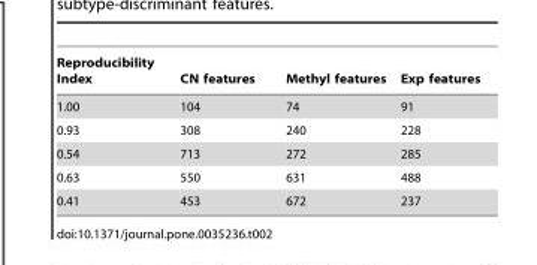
<table><thead><tr><td>Reproducibility Index</td><td>CN features</td><td>Methyl features</td><td>Exp features</td></tr></thead><tbody><tr><td>1.00</td><td>104</td><td>74</td><td>91</td></tr><tr><td>0.93</td><td>308</td><td>240</td><td>228</td></tr><tr><td>0.54</td><td>713</td><td>272</td><td>285</td></tr><tr><td>0.63</td><td>550</td><td>631</td><td>488</td></tr><tr><td>0.41</td><td>453</td><td>672</td><td>237</td></tr></tbody></table>